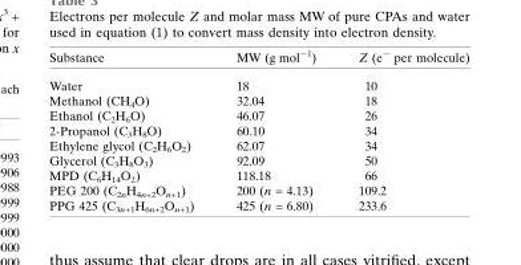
<table><thead><tr><td>Substance</td><td>MW (g mol<sup>−1</sup>)</td><td>Z (e<sup>−</sup> per molecule)</td></tr></thead><tbody><tr><td>Water</td><td>18</td><td>10</td></tr><tr><td>Methanol (CH<sub>4</sub>O)</td><td>32.04</td><td>18</td></tr><tr><td>Ethanol (C<sub>2</sub>H<sub>6</sub>O)</td><td>46.07</td><td>26</td></tr><tr><td>2-Propanol (C<sub>3</sub>H<sub>8</sub>O)</td><td>60.10</td><td>34</td></tr><tr><td>Ethylene glycol (C<sub>2</sub>H<sub>6</sub>O<sub>2</sub>)</td><td>62.07</td><td>34</td></tr><tr><td>Glycerol (C<sub>3</sub>H<sub>8</sub>O<sub>3</sub>)</td><td>92.09</td><td>50</td></tr><tr><td>MPD (C<sub>6</sub>H<sub>14</sub>O<sub>2</sub>)</td><td>118.18</td><td>66</td></tr><tr><td>PEG 200 (C<sub>2n</sub>H<sub>4n+2</sub>O<sub>n+1</sub>)</td><td>200 (n = 4.13)</td><td>109.2</td></tr><tr><td>PPG 425 (C<sub>3n+1</sub>H<sub>6n+2</sub>O<sub>n+1</sub>)</td><td>425 (n = 6.80)</td><td>233.6</td></tr></tbody></table>